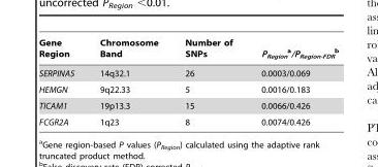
<table><thead><tr><td>Gene Region</td><td>Chromosome Band</td><td>Number of SNPs</td><td>P<sub>Region</sub> a/P<sub>Region-FDR</sub> b</td></tr></thead><tbody><tr><td>SERPINA5</td><td>14q32.1</td><td>26</td><td>0.0003/0.069</td></tr><tr><td>HEMGN</td><td>9q22.33</td><td>5</td><td>0.0016/0.183</td></tr><tr><td>TICAM1</td><td>19p13.3</td><td>15</td><td>0.0066/0.426</td></tr><tr><td>FCGR2A</td><td>1q23</td><td>8</td><td>0.0074/0.426</td></tr></tbody></table>